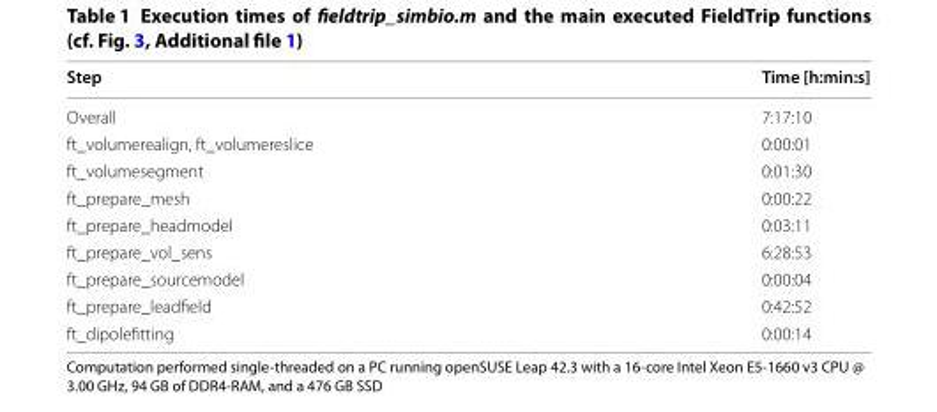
<table><thead><tr><td>Step</td><td>Time [h:min:s]</td></tr></thead><tbody><tr><td>Overall</td><td>7:17:10</td></tr><tr><td>ft_volumerealign, ft_volumereslice</td><td>0:00:01</td></tr><tr><td>ft_volumesegment</td><td>0:01:30</td></tr><tr><td>ft_prepare_mesh</td><td>0:00:22</td></tr><tr><td>ft_prepare_headmodel</td><td>0:03:11</td></tr><tr><td>ft_prepare_vol_sens</td><td>6:28:53</td></tr><tr><td>ft_prepare_sourcemodel</td><td>0:00:04</td></tr><tr><td>ft_prepare_leadfield</td><td>0:42:52</td></tr><tr><td>ft_dipolefitting</td><td>0:00:14</td></tr></tbody></table>